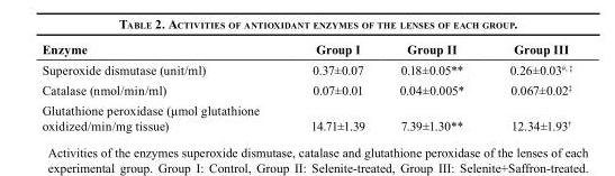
<table><thead><tr><td>Enzyme</td><td>Group I</td><td>Group II</td><td>Group III</td></tr></thead><tbody><tr><td>Superoxide dismutase (unit/ml)</td><td>0.37±0.07</td><td>0.18±0.05**</td><td>0.26±0.03<sup>#, ‡</sup></td></tr><tr><td>Catalase (nmol/min/ml)</td><td>0.07±0.01</td><td>0.04±0.005*</td><td>0.067±0.02<sup>‡</sup></td></tr><tr><td>Glutathione peroxidase (μmol glutathione oxidized/min/mg tissue)</td><td>14.71±1.39</td><td>7.39±1.30**</td><td>12.34±1.93<sup>†</sup></td></tr></tbody></table>